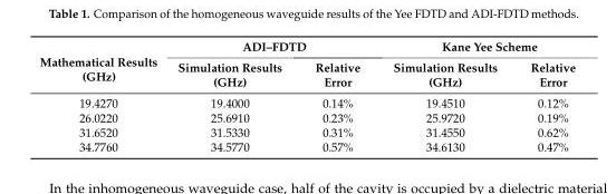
<table><thead><tr><td rowspan="2">Mathematical Results (GHz)</td><td colspan="2">ADI–FDTD</td><td colspan="2">Kane Yee Scheme</td></tr><tr><td>Simulation Results (GHz)</td><td>Relative Error</td><td>Simulation Results (GHz)</td><td>Relative Error</td></tr></thead><tbody><tr><td>19.4270</td><td>19.4000</td><td>0.14%</td><td>19.4510</td><td>0.12%</td></tr><tr><td>26.0220</td><td>25.6910</td><td>0.23%</td><td>25.9720</td><td>0.19%</td></tr><tr><td>31.6520</td><td>31.5330</td><td>0.31%</td><td>31.4550</td><td>0.62%</td></tr><tr><td>34.7760</td><td>34.5770</td><td>0.57%</td><td>34.6130</td><td>0.47%</td></tr></tbody></table>